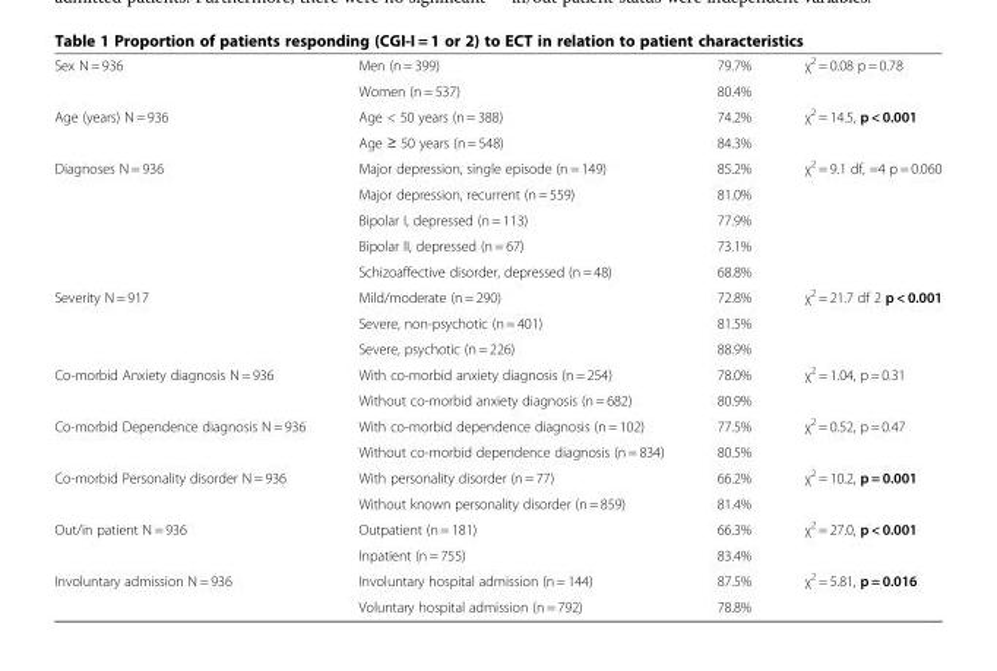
<table><tbody><tr><td rowspan="2">Sex N = 936</td><td>Men (n = 399)</td><td>79.7%</td><td>χ<sup>2</sup> = 0.08 p = 0.78</td></tr><tr><td>Women (n = 537)</td><td>80.4%</td><td></td></tr><tr><td rowspan="2">Age (years) N = 936</td><td>Age &lt; 50 years (n = 388)</td><td>74.2%</td><td>χ<sup>2</sup> = 14.5, p &lt; 0.001</td></tr><tr><td>Age ≥ 50 years (n = 548)</td><td>84.3%</td><td></td></tr><tr><td rowspan="5">Diagnoses N = 936</td><td>Major depression, single episode (n = 149)</td><td>85.2%</td><td>χ<sup>2</sup> = 9.1 df, =4 p = 0.060</td></tr><tr><td>Major depression, recurrent (n = 559)</td><td>81.0%</td><td></td></tr><tr><td>Bipolar I, depressed (n = 113)</td><td>77.9%</td><td></td></tr><tr><td>Bipolar II, depressed (n = 67)</td><td>73.1%</td><td></td></tr><tr><td>Schizoaffective disorder, depressed (n = 48)</td><td>68.8%</td><td></td></tr><tr><td rowspan="3">Severity N = 917</td><td>Mild/moderate (n = 290)</td><td>72.8%</td><td>χ<sup>2</sup> = 21.7 df 2 p &lt; 0.001</td></tr><tr><td>Severe, non-psychotic (n = 401)</td><td>81.5%</td><td></td></tr><tr><td>Severe, psychotic (n = 226)</td><td>88.9%</td><td></td></tr><tr><td rowspan="2">Co-morbid Anxiety diagnosis N = 936</td><td>With co-morbid anxiety diagnosis (n = 254)</td><td>78.0%</td><td>χ<sup>2</sup> = 1.04, p = 0.31</td></tr><tr><td>Without co-morbid anxiety diagnosis (n = 682)</td><td>80.9%</td><td></td></tr><tr><td rowspan="2">Co-morbid Dependence diagnosis N = 936</td><td>With co-morbid dependence diagnosis (n = 102)</td><td>77.5%</td><td>χ<sup>2</sup> = 0.52, p = 0.47</td></tr><tr><td>Without co-morbid dependence diagnosis (n = 834)</td><td>80.5%</td><td></td></tr><tr><td rowspan="2">Co-morbid Personality disorder N = 936</td><td>With personality disorder (n = 77)</td><td>66.2%</td><td>χ<sup>2</sup> = 10.2, p = 0.001</td></tr><tr><td>Without known personality disorder (n = 859)</td><td>81.4%</td><td></td></tr><tr><td rowspan="2">Out/in patient N = 936</td><td>Outpatient (n = 181)</td><td>66.3%</td><td>χ<sup>2</sup> = 27.0, p &lt; 0.001</td></tr><tr><td>Inpatient (n = 755)</td><td>83.4%</td><td></td></tr><tr><td rowspan="2">Involuntary admission N = 936</td><td>Involuntary hospital admission (n = 144)</td><td>87.5%</td><td>χ<sup>2</sup> = 5.81, p = 0.016</td></tr><tr><td>Voluntary hospital admission (n = 792)</td><td>78.8%</td><td></td></tr></tbody></table>